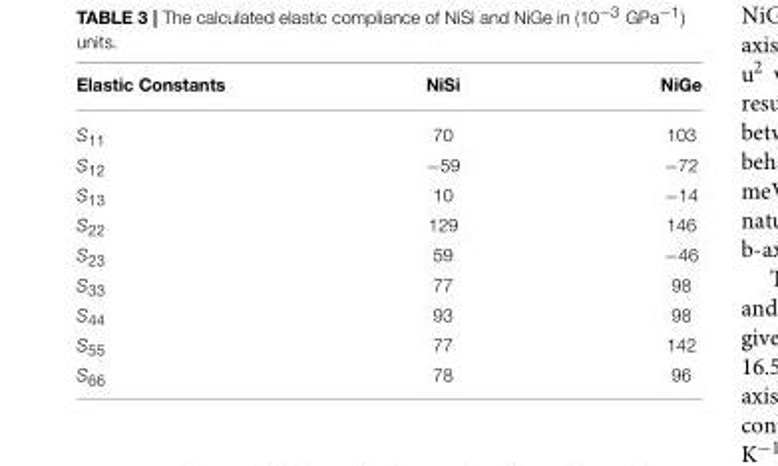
<table><thead><tr><td>Elastic Constants</td><td>NiSi</td><td>NiGe</td></tr></thead><tbody><tr><td>S<sub>11</sub></td><td>70</td><td>103</td></tr><tr><td>S<sub>12</sub></td><td>−59</td><td>−72</td></tr><tr><td>S<sub>13</sub></td><td>10</td><td>−14</td></tr><tr><td>S<sub>22</sub></td><td>129</td><td>146</td></tr><tr><td>S<sub>23</sub></td><td>59</td><td>−46</td></tr><tr><td>S<sub>33</sub></td><td>77</td><td>98</td></tr><tr><td>S<sub>44</sub></td><td>93</td><td>98</td></tr><tr><td>S<sub>55</sub></td><td>77</td><td>142</td></tr><tr><td>S<sub>66</sub></td><td>78</td><td>96</td></tr></tbody></table>